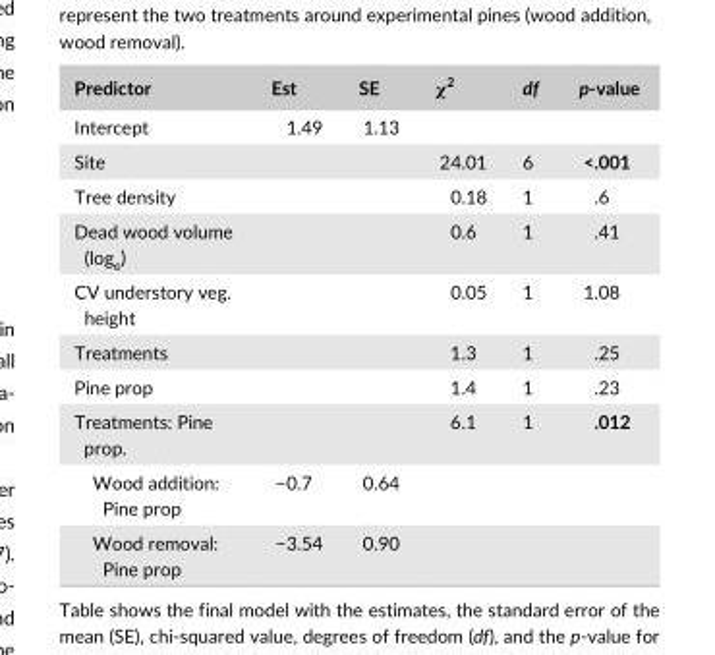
<table><thead><tr><td>Predictor</td><td>Est</td><td>SE</td><td>χ<sup>2</sup></td><td>df</td><td>p- value</td></tr></thead><tbody><tr><td>Intercept</td><td>1.49</td><td>1.13</td><td></td><td></td><td></td></tr><tr><td>Site</td><td></td><td></td><td>24.01</td><td>6</td><td>&lt;.001</td></tr><tr><td>Tree density</td><td></td><td></td><td>0.18</td><td>1</td><td>.6</td></tr><tr><td>Dead wood volume (log<sub>e</sub>)</td><td></td><td></td><td>0.6</td><td>1</td><td>.41</td></tr><tr><td>CV understory veg. height</td><td></td><td></td><td>0.05</td><td>1</td><td>1.08</td></tr><tr><td>Treatments</td><td></td><td></td><td>1.3</td><td>1</td><td>.25</td></tr><tr><td>Pine prop</td><td></td><td></td><td>1.4</td><td>1</td><td>.23</td></tr><tr><td>Treatments: Pine prop.</td><td></td><td></td><td>6.1</td><td>1</td><td>.012</td></tr><tr><td>Wood addition: Pine prop</td><td>−0.7</td><td>0.64</td><td></td><td></td><td></td></tr><tr><td>Wood removal: Pine prop</td><td>−3.54</td><td>0.90</td><td></td><td></td><td></td></tr></tbody></table>